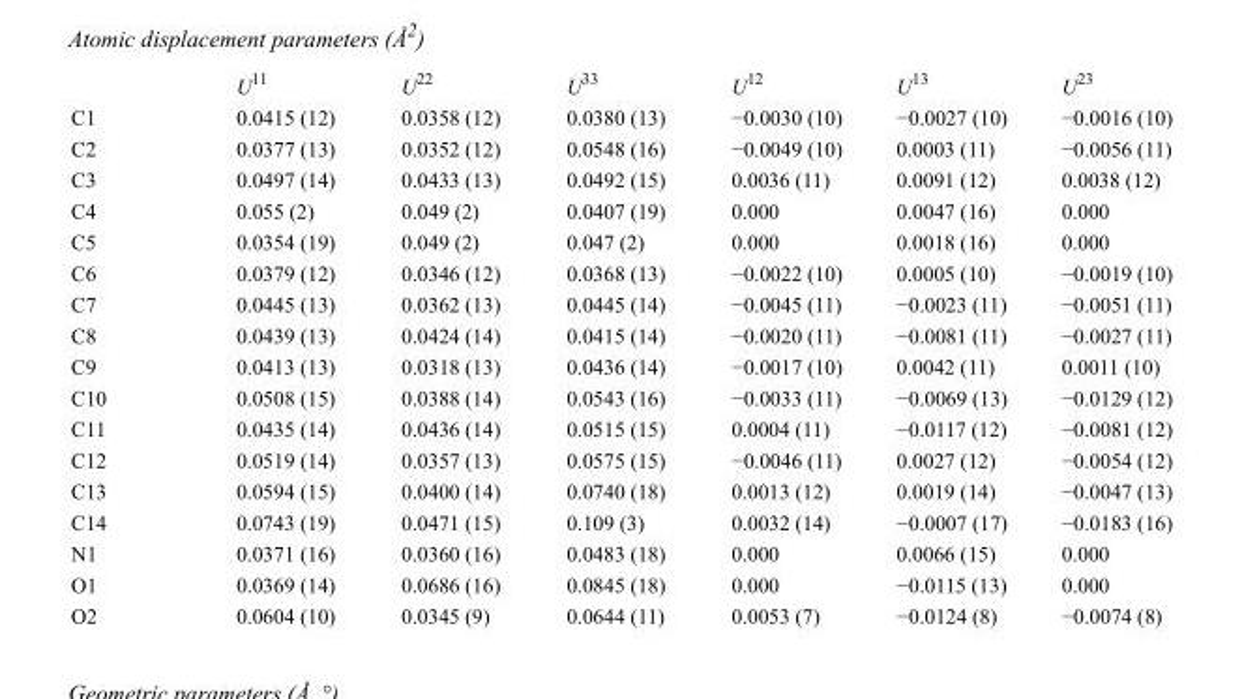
<table><thead><tr><td></td><td>U<sup>11</sup></td><td>U<sup>22</sup></td><td>U<sup>33</sup></td><td>U<sup>12</sup></td><td>U<sup>13</sup></td><td>U<sup>23</sup></td></tr></thead><tbody><tr><td>C1</td><td>0.0415 (12)</td><td>0.0358 (12)</td><td>0.0380 (13)</td><td>−0.0030 (10)</td><td>−0.0027 (10)</td><td>−0.0016 (10)</td></tr><tr><td>C2</td><td>0.0377 (13)</td><td>0.0352 (12)</td><td>0.0548 (16)</td><td>−0.0049 (10)</td><td>0.0003 (11)</td><td>−0.0056 (11)</td></tr><tr><td>C3</td><td>0.0497 (14)</td><td>0.0433 (13)</td><td>0.0492 (15)</td><td>0.0036 (11)</td><td>0.0091 (12)</td><td>0.0038 (12)</td></tr><tr><td>C4</td><td>0.055 (2)</td><td>0.049 (2)</td><td>0.0407 (19)</td><td>0.000</td><td>0.0047 (16)</td><td>0.000</td></tr><tr><td>C5</td><td>0.0354 (19)</td><td>0.049 (2)</td><td>0.047 (2)</td><td>0.000</td><td>0.0018 (16)</td><td>0.000</td></tr><tr><td>C6</td><td>0.0379 (12)</td><td>0.0346 (12)</td><td>0.0368 (13)</td><td>−0.0022 (10)</td><td>0.0005 (10)</td><td>−0.0019 (10)</td></tr><tr><td>C7</td><td>0.0445 (13)</td><td>0.0362 (13)</td><td>0.0445 (14)</td><td>−0.0045 (11)</td><td>−0.0023 (11)</td><td>−0.0051 (11)</td></tr><tr><td>C8</td><td>0.0439 (13)</td><td>0.0424 (14)</td><td>0.0415 (14)</td><td>−0.0020 (11)</td><td>−0.0081 (11)</td><td>−0.0027 (11)</td></tr><tr><td>C9</td><td>0.0413 (13)</td><td>0.0318 (13)</td><td>0.0436 (14)</td><td>−0.0017 (10)</td><td>0.0042 (11)</td><td>0.0011 (10)</td></tr><tr><td>C10</td><td>0.0508 (15)</td><td>0.0388 (14)</td><td>0.0543 (16)</td><td>−0.0033 (11)</td><td>−0.0069 (13)</td><td>−0.0129 (12)</td></tr><tr><td>C11</td><td>0.0435 (14)</td><td>0.0436 (14)</td><td>0.0515 (15)</td><td>0.0004 (11)</td><td>−0.0117 (12)</td><td>−0.0081 (12)</td></tr><tr><td>C12</td><td>0.0519 (14)</td><td>0.0357 (13)</td><td>0.0575 (15)</td><td>−0.0046 (11)</td><td>0.0027 (12)</td><td>−0.0054 (12)</td></tr><tr><td>C13</td><td>0.0594 (15)</td><td>0.0400 (14)</td><td>0.0740 (18)</td><td>0.0013 (12)</td><td>0.0019 (14)</td><td>−0.0047 (13)</td></tr><tr><td>C14</td><td>0.0743 (19)</td><td>0.0471 (15)</td><td>0.109 (3)</td><td>0.0032 (14)</td><td>−0.0007 (17)</td><td>−0.0183 (16)</td></tr><tr><td>N1</td><td>0.0371 (16)</td><td>0.0360 (16)</td><td>0.0483 (18)</td><td>0.000</td><td>0.0066 (15)</td><td>0.000</td></tr><tr><td>O1</td><td>0.0369 (14)</td><td>0.0686 (16)</td><td>0.0845 (18)</td><td>0.000</td><td>−0.0115 (13)</td><td>0.000</td></tr><tr><td>O2</td><td>0.0604 (10)</td><td>0.0345 (9)</td><td>0.0644 (11)</td><td>0.0053 (7)</td><td>−0.0124 (8)</td><td>−0.0074 (8)</td></tr></tbody></table>